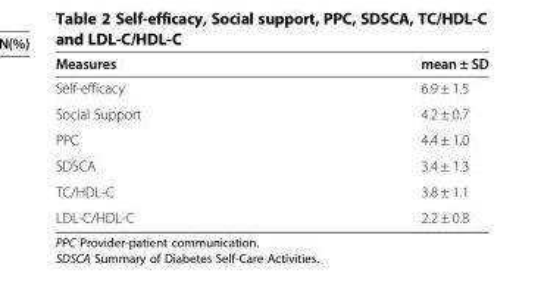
<table><thead><tr><td>Measures</td><td>mean ± SD</td></tr></thead><tbody><tr><td>Self-efficacy</td><td>6.9 ± 1.5</td></tr><tr><td>Social Support</td><td>4.2 ± 0.7</td></tr><tr><td>PPC</td><td>4.4 ± 1.0</td></tr><tr><td>SDSCA</td><td>3.4 ± 1.3</td></tr><tr><td>TC/HDL-C</td><td>3.8 ± 1.1</td></tr><tr><td>LDL-C/HDL-C</td><td>2.2 ± 0.8</td></tr></tbody></table>